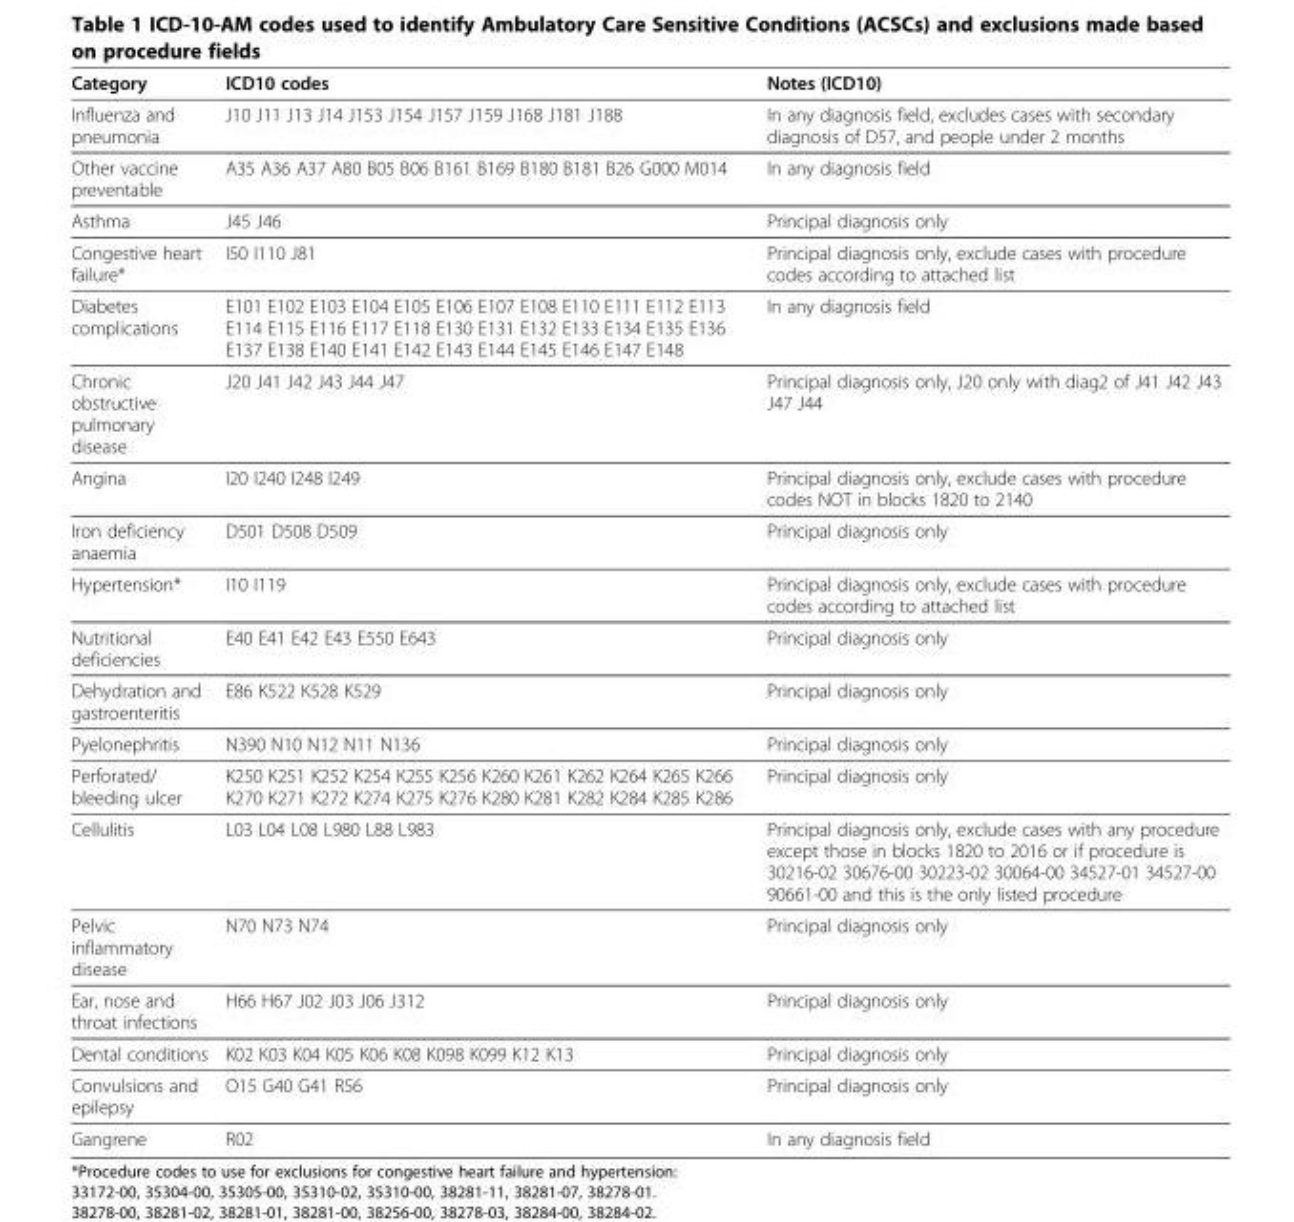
<table><thead><tr><td>Category</td><td>ICD10 codes</td><td>Notes (ICD10)</td></tr></thead><tbody><tr><td>Influenza and pneumonia</td><td>J10 J11 J13 J14 J153 J154 J157 J159 J168 J181 J188</td><td>In any diagnosis field, excludes cases with secondary diagnosis of D57, and people under 2 months</td></tr><tr><td>Other vaccine preventable</td><td>A35 A36 A37 A80 B05 B06 B161 B169 B180 B181 B26 G000 M014</td><td>In any diagnosis field</td></tr><tr><td>Asthma</td><td>J45 J46</td><td>Principal diagnosis only</td></tr><tr><td>Congestive heart failure*</td><td>I50 I110 J81</td><td>Principal diagnosis only, exclude cases with procedure codes according to attached list</td></tr><tr><td>Diabetes complications</td><td>E101 E102 E103 E104 E105 E106 E107 E108 E110 E111 E112 E113 E114 E115 E116 E117 E118 E130 E131 E132 E133 E134 E135 E136 E137 E138 E140 E141 E142 E143 E144 E145 E146 E147 E148</td><td>In any diagnosis field</td></tr><tr><td>Chronic obstructive pulmonary disease</td><td>J20 J41 J42 J43 J44 J47</td><td>Principal diagnosis only, J20 only with diag2 of J41 J42 J43 J47 J44</td></tr><tr><td>Angina</td><td>I20 I240 I248 I249</td><td>Principal diagnosis only, exclude cases with procedure codes NOT in blocks 1820 to 2140</td></tr><tr><td>Iron deficiency anaemia</td><td>D501 D508 D509</td><td>Principal diagnosis only</td></tr><tr><td>Hypertension*</td><td>I10 I119</td><td>Principal diagnosis only, exclude cases with procedure codes according to attached list</td></tr><tr><td>Nutritional deficiencies</td><td>E40 E41 E42 E43 E550 E643</td><td>Principal diagnosis only</td></tr><tr><td>Dehydration and gastroenteritis</td><td>E86 K522 K528 K529</td><td>Principal diagnosis only</td></tr><tr><td>Pyelonephritis</td><td>N390 N10 N12 N11 N136</td><td>Principal diagnosis only</td></tr><tr><td>Perforated/ bleeding ulcer</td><td>K250 K251 K252 K254 K255 K256 K260 K261 K262 K264 K265 K266 K270 K271 K272 K274 K275 K276 K280 K281 K282 K284 K285 K286</td><td>Principal diagnosis only</td></tr><tr><td>Cellulitis</td><td>L03 L04 L08 L980 L88 L983</td><td>Principal diagnosis only, exclude cases with any procedure except those in blocks 1820 to 2016 or if procedure is 30216-02 30676-00 30223-02 30064-00 34527-01 34527-00 90661-00 and this is the only listed procedure</td></tr><tr><td>Pelvic inflammatory disease</td><td>N70 N73 N74</td><td>Principal diagnosis only</td></tr><tr><td>Ear, nose and throat infections</td><td>H66 H67 J02 J03 J06 J312</td><td>Principal diagnosis only</td></tr><tr><td>Dental conditions</td><td>K02 K03 K04 K05 K06 K08 K098 K099 K12 K13</td><td>Principal diagnosis only</td></tr><tr><td>Convulsions and epilepsy</td><td>O15 G40 G41 R56</td><td>Principal diagnosis only</td></tr><tr><td>Gangrene</td><td>R02</td><td>In any diagnosis field</td></tr></tbody></table>